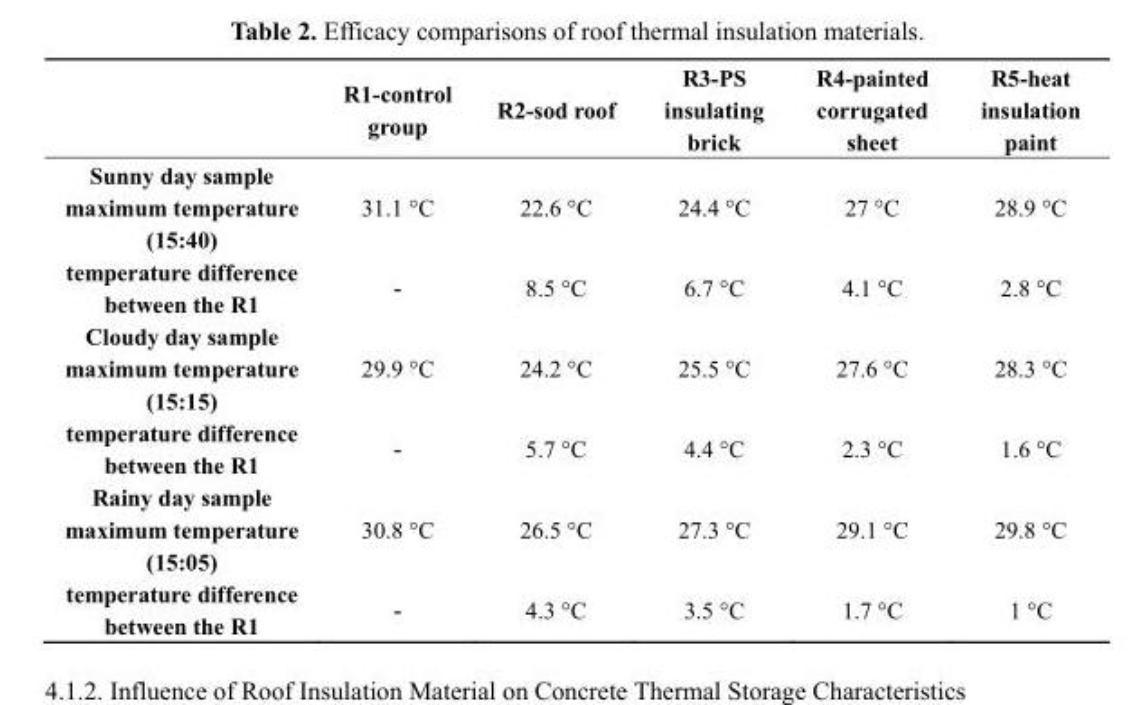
<table><thead><tr><td></td><td>R1-control group</td><td>R2-sod roof</td><td>R3-PS insulating brick</td><td>R4-painted corrugated sheet</td><td>R5-heat insulation paint</td></tr></thead><tbody><tr><td>Sunny day sample maximum temperature (15:40)</td><td>31.1 °C</td><td>22.6 °C</td><td>24.4 °C</td><td>27 °C</td><td>28.9 °C</td></tr><tr><td>temperature difference between the R1</td><td>－</td><td>8.5 °C</td><td>6.7 °C</td><td>4.1 °C</td><td>2.8 °C</td></tr><tr><td>Cloudy day sample maximum temperature (15:15)</td><td>29.9 °C</td><td>24.2 °C</td><td>25.5 °C</td><td>27.6 °C</td><td>28.3 °C</td></tr><tr><td>temperature difference between the R1</td><td>－</td><td>5.7 °C</td><td>4.4 °C</td><td>2.3 °C</td><td>1.6 °C</td></tr><tr><td>Rainy day sample maximum temperature (15:05)</td><td>30.8 °C</td><td>26.5 °C</td><td>27.3 °C</td><td>29.1 °C</td><td>29.8 °C</td></tr><tr><td>temperature difference between the R1</td><td>－</td><td>4.3 °C</td><td>3.5 °C</td><td>1.7 °C</td><td>1 °C</td></tr></tbody></table>